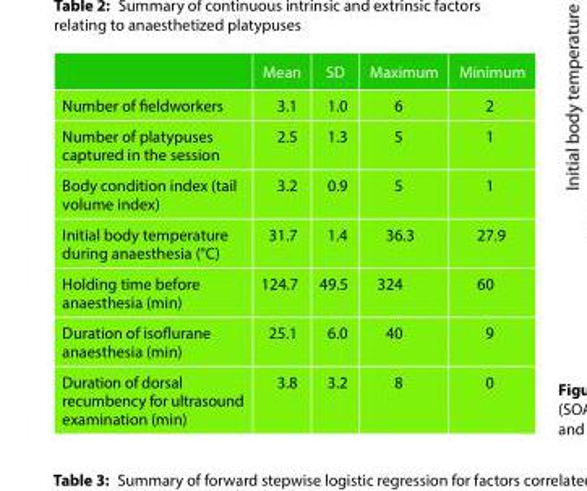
<table><thead><tr><td></td><td>Mean</td><td>SD</td><td>Maximum</td><td>Minimum</td></tr></thead><tbody><tr><td>Number of fieldworkers</td><td>3.1</td><td>1.0</td><td>6</td><td>2</td></tr><tr><td>Number of platypuses captured in the session</td><td>2.5</td><td>1.3</td><td>5</td><td>1</td></tr><tr><td>Body condition index (tail volume index)</td><td>3.2</td><td>0.9</td><td>5</td><td>1</td></tr><tr><td>Initial body temperature during anaesthesia (°C)</td><td>31.7</td><td>1.4</td><td>36.3</td><td>27.9</td></tr><tr><td>Holding time before anaesthesia (min)</td><td>124.7</td><td>49.5</td><td>324</td><td>60</td></tr><tr><td>Duration of isoflurane anaesthesia (min)</td><td>25.1</td><td>6.0</td><td>40</td><td>9</td></tr><tr><td>Duration of dorsal recumbency for ultrasound examination (min)</td><td>3.8</td><td>3.2</td><td>8</td><td>0</td></tr></tbody></table>